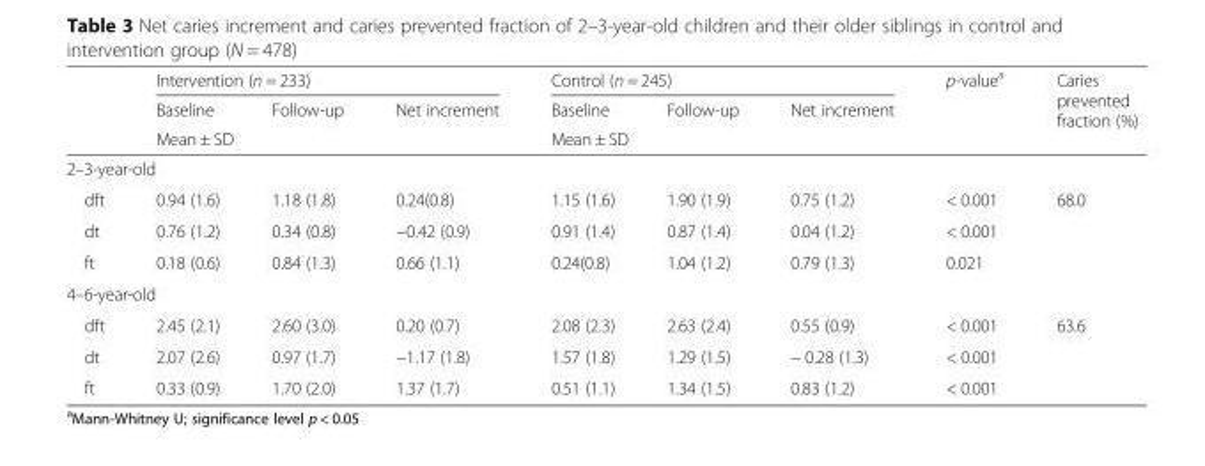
<table><thead><tr><td rowspan="3"></td><td colspan="3">Intervention (n = 233)</td><td colspan="3">Control (n = 245)</td><td rowspan="3">p-value<sup>a</sup></td><td rowspan="3">Caries prevented fraction (%)</td></tr><tr><td>Baseline</td><td>Follow-up</td><td>Net increment</td><td>Baseline</td><td>Follow-up</td><td>Net increment</td></tr><tr><td colspan="3">Mean ± SD</td><td colspan="3">Mean ± SD</td></tr></thead><tbody><tr><td colspan="9">2–3-year-old</td></tr><tr><td>dft</td><td>0.94 (1.6)</td><td>1.18 (1.8)</td><td>0.24(0.8)</td><td>1.15 (1.6)</td><td>1.90 (1.9)</td><td>0.75 (1.2)</td><td>&lt; 0.001</td><td>68.0</td></tr><tr><td>dt</td><td>0.76 (1.2)</td><td>0.34 (0.8)</td><td>−0.42 (0.9)</td><td>0.91 (1.4)</td><td>0.87 (1.4)</td><td>0.04 (1.2)</td><td>&lt; 0.001</td><td></td></tr><tr><td>ft</td><td>0.18 (0.6)</td><td>0.84 (1.3)</td><td>0.66 (1.1)</td><td>0.24(0.8)</td><td>1.04 (1.2)</td><td>0.79 (1.3)</td><td>0.021</td><td></td></tr><tr><td colspan="9">4–6-year-old</td></tr><tr><td>dft</td><td>2.45 (2.1)</td><td>2.60 (3.0)</td><td>0.20 (0.7)</td><td>2.08 (2.3)</td><td>2.63 (2.4)</td><td>0.55 (0.9)</td><td>&lt; 0.001</td><td>63.6</td></tr><tr><td>dt</td><td>2.07 (2.6)</td><td>0.97 (1.7)</td><td>−1.17 (1.8)</td><td>1.57 (1.8)</td><td>1.29 (1.5)</td><td>− 0.28 (1.3)</td><td>&lt; 0.001</td><td></td></tr><tr><td>ft</td><td>0.33 (0.9)</td><td>1.70 (2.0)</td><td>1.37 (1.7)</td><td>0.51 (1.1)</td><td>1.34 (1.5)</td><td>0.83 (1.2)</td><td>&lt; 0.001</td><td></td></tr></tbody></table>